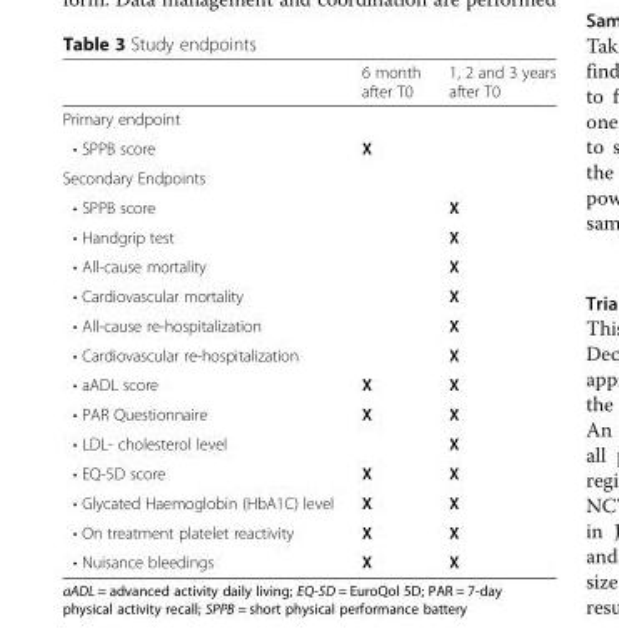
<table><thead><tr><td></td><td>6 month after T0</td><td>1, 2 and 3 years after T0</td></tr></thead><tbody><tr><td colspan="3">Primary endpoint</td></tr><tr><td>• SPPB score</td><td>X</td><td></td></tr><tr><td colspan="3">Secondary Endpoints</td></tr><tr><td>• SPPB score</td><td></td><td>X</td></tr><tr><td>• Handgrip test</td><td></td><td>X</td></tr><tr><td>• All-cause mortality</td><td></td><td>X</td></tr><tr><td>• Cardiovascular mortality</td><td></td><td>X</td></tr><tr><td>• All-cause re-hospitalization</td><td></td><td>X</td></tr><tr><td>• Cardiovascular re-hospitalization</td><td></td><td>X</td></tr><tr><td>• aADL score</td><td>X</td><td>X</td></tr><tr><td>• PAR Questionnaire</td><td>X</td><td>X</td></tr><tr><td>• LDL- cholesterol level</td><td></td><td>X</td></tr><tr><td>• EQ-5D score</td><td>X</td><td>X</td></tr><tr><td>• Glycated Haemoglobin (HbA1C) level</td><td>X</td><td>X</td></tr><tr><td>• On treatment platelet reactivity</td><td>X</td><td>X</td></tr><tr><td>• Nuisance bleedings</td><td>X</td><td>X</td></tr></tbody></table>